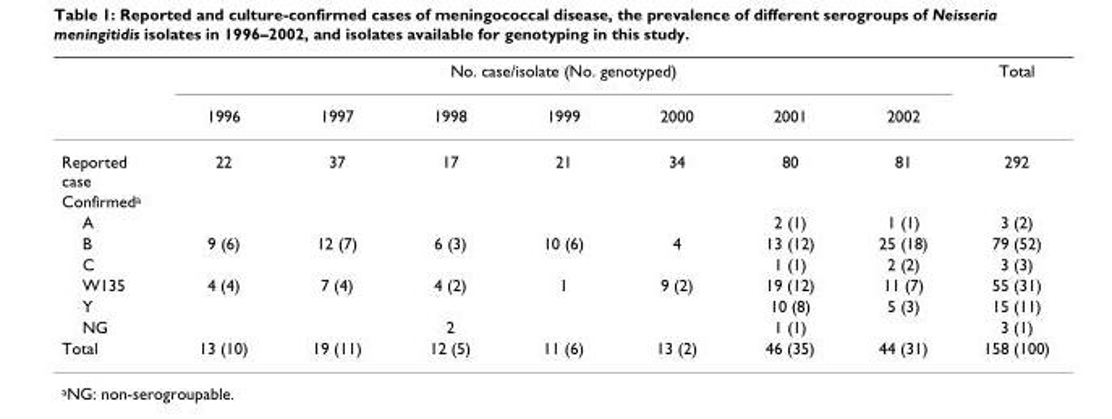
<table><thead><tr><td rowspan="2"></td><td colspan="7">No. case/isolate (No. genotyped)</td><td rowspan="2">Total</td></tr><tr><td>1996</td><td>1997</td><td>1998</td><td>1999</td><td>2000</td><td>2001</td><td>2002</td></tr></thead><tbody><tr><td>Reported case</td><td>22</td><td>37</td><td>17</td><td>21</td><td>34</td><td>80</td><td>81</td><td>292</td></tr><tr><td colspan="9">Confirmed<sup>a</sup></td></tr><tr><td>A</td><td></td><td></td><td></td><td></td><td></td><td>2 (1)</td><td>1 (1)</td><td>3 (2)</td></tr><tr><td>B</td><td>9 (6)</td><td>12 (7)</td><td>6 (3)</td><td>10 (6)</td><td>4</td><td>13 (12)</td><td>25 (18)</td><td>79 (52)</td></tr><tr><td>C</td><td></td><td></td><td></td><td></td><td></td><td>1 (1)</td><td>2 (2)</td><td>3 (3)</td></tr><tr><td>W135</td><td>4 (4)</td><td>7 (4)</td><td>4 (2)</td><td>1</td><td>9 (2)</td><td>19 (12)</td><td>11 (7)</td><td>55 (31)</td></tr><tr><td>Y</td><td></td><td></td><td></td><td></td><td></td><td>10 (8)</td><td>5 (3)</td><td>15 (11)</td></tr><tr><td>NG</td><td></td><td></td><td>2</td><td></td><td></td><td>1 (1)</td><td></td><td>3 (1)</td></tr><tr><td>Total</td><td>13 (10)</td><td>19 (11)</td><td>12 (5)</td><td>11 (6)</td><td>13 (2)</td><td>46 (35)</td><td>44 (31)</td><td>158 (100)</td></tr></tbody></table>